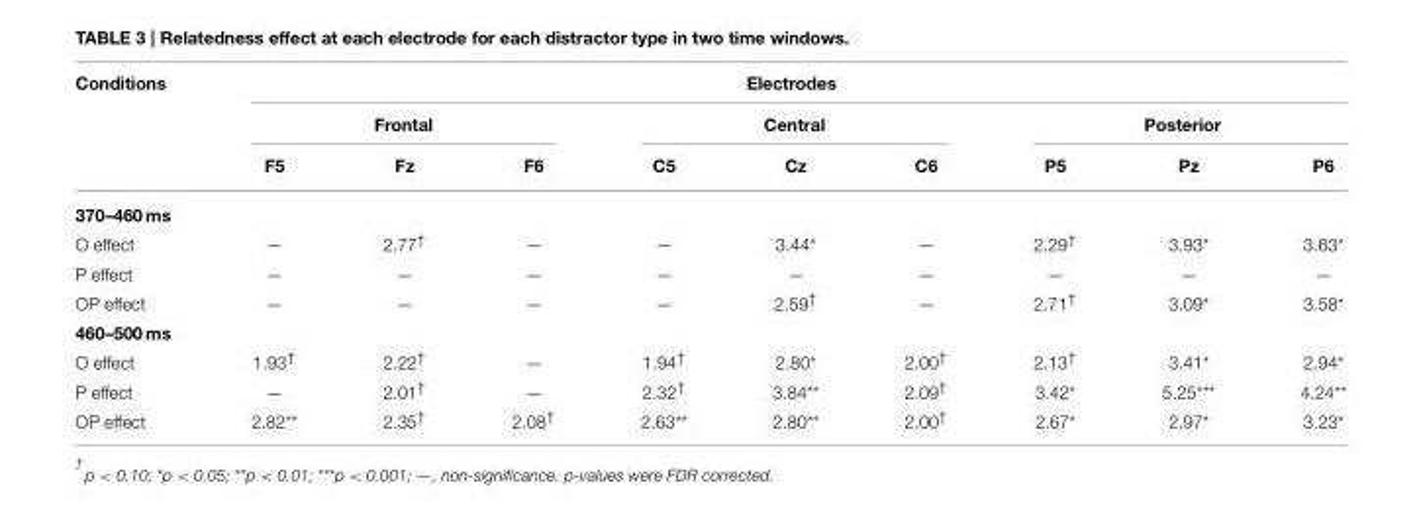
<table><thead><tr><td rowspan="3">Conditions</td><td colspan="9">Electrodes</td></tr><tr><td colspan="3">Frontal</td><td colspan="3">Central</td><td colspan="3">Posterior</td></tr><tr><td>F5</td><td>Fz</td><td>F6</td><td>C5</td><td>Cz</td><td>C6</td><td>P5</td><td>Pz</td><td>P6</td></tr></thead><tbody><tr><td colspan="10">370–460 ms</td></tr><tr><td>O effect</td><td>—</td><td>2.77<sup>†</sup></td><td>—</td><td>—</td><td>3.44*</td><td>—</td><td>2.29<sup>†</sup></td><td>3.93*</td><td>3.63*</td></tr><tr><td>P effect</td><td>—</td><td>—</td><td>—</td><td>—</td><td>—</td><td>—</td><td>—</td><td>—</td><td>—</td></tr><tr><td>OP effect</td><td>—</td><td>—</td><td>—</td><td>—</td><td>2.59<sup>†</sup></td><td>—</td><td>2.71<sup>†</sup></td><td>3.09*</td><td>3.58*</td></tr><tr><td colspan="10">460–500 ms</td></tr><tr><td>O effect</td><td>1.93<sup>†</sup></td><td>2.22<sup>†</sup></td><td>—</td><td>1.94<sup>†</sup></td><td>2.80*</td><td>2.00<sup>†</sup></td><td>2.13<sup>†</sup></td><td>3.41*</td><td>2.94*</td></tr><tr><td>P effect</td><td>—</td><td>2.01<sup>†</sup></td><td>—</td><td>2.32<sup>†</sup></td><td>3.84**</td><td>2.09<sup>†</sup></td><td>3.42*</td><td>5.25***</td><td>4.24**</td></tr><tr><td>OP effect</td><td>2.82**</td><td>2.35<sup>†</sup></td><td>2.08<sup>†</sup></td><td>2.63**</td><td>2.80**</td><td>2.00<sup>†</sup></td><td>2.67*</td><td>2.97*</td><td>3.23*</td></tr></tbody></table>